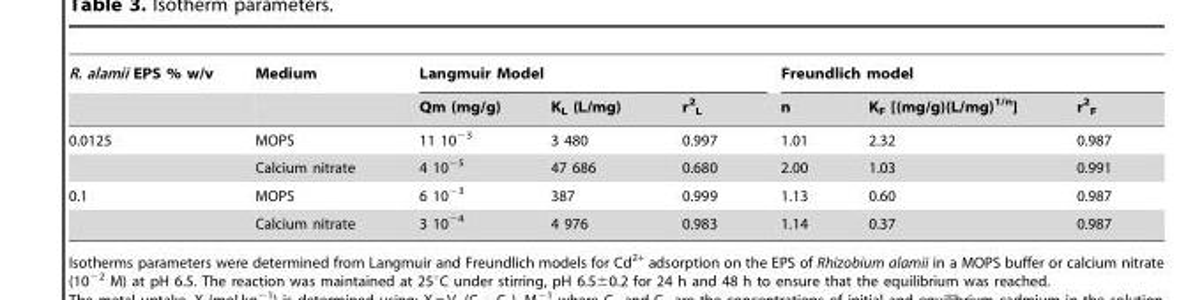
<table><thead><tr><td rowspan="2">R. alamii EPS % w/v</td><td rowspan="2">Medium</td><td colspan="3">Langmuir Model</td><td colspan="3">Freundlich model</td></tr><tr><td>Qm (mg/g)</td><td>K<sub>L</sub> (L/mg)</td><td>r<sup>2</sup> <sub>L</sub></td><td>n</td><td>K<sub>F</sub> [(mg/g)(L/mg)<sup>1/n</sup>]</td><td>r<sup>2</sup> <sub>F</sub></td></tr></thead><tbody><tr><td rowspan="2">0.0125</td><td>MOPS</td><td>11 10<sup>−3</sup></td><td>3 480</td><td>0.997</td><td>1.01</td><td>2.32</td><td>0.987</td></tr><tr><td>Calcium nitrate</td><td>4 10<sup>−5</sup></td><td>47 686</td><td>0.680</td><td>2.00</td><td>1.03</td><td>0.991</td></tr><tr><td rowspan="2">0.1</td><td>MOPS</td><td>6 10<sup>−3</sup></td><td>387</td><td>0.999</td><td>1.13</td><td>0.60</td><td>0.987</td></tr><tr><td>Calcium nitrate</td><td>3 10<sup>−4</sup></td><td>4 976</td><td>0.983</td><td>1.14</td><td>0.37</td><td>0.987</td></tr></tbody></table>